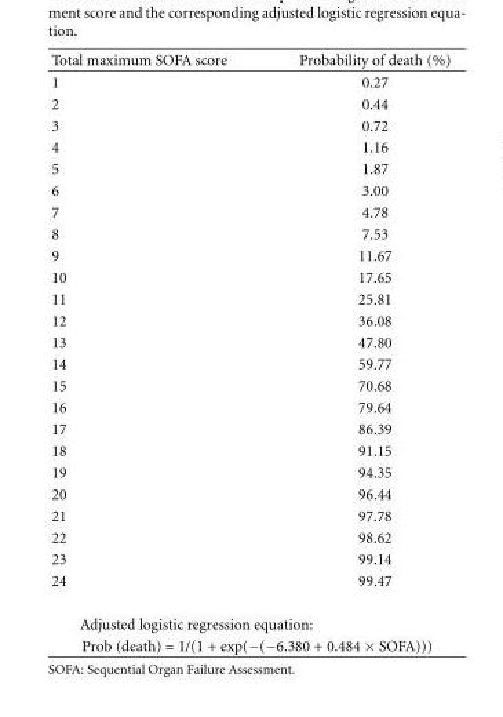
<table><thead><tr><td>Total maximum SOFA score</td><td>Probability of death (%)</td></tr></thead><tbody><tr><td>1</td><td>0.27</td></tr><tr><td>2</td><td>0.44</td></tr><tr><td>3</td><td>0.72</td></tr><tr><td>4</td><td>1.16</td></tr><tr><td>5</td><td>1.87</td></tr><tr><td>6</td><td>3.00</td></tr><tr><td>7</td><td>4.78</td></tr><tr><td>8</td><td>7.53</td></tr><tr><td>9</td><td>11.67</td></tr><tr><td>10</td><td>17.65</td></tr><tr><td>11</td><td>25.81</td></tr><tr><td>12</td><td>36.08</td></tr><tr><td>13</td><td>47.80</td></tr><tr><td>14</td><td>59.77</td></tr><tr><td>15</td><td>70.68</td></tr><tr><td>16</td><td>79.64</td></tr><tr><td>17</td><td>86.39</td></tr><tr><td>18</td><td>91.15</td></tr><tr><td>19</td><td>94.35</td></tr><tr><td>20</td><td>96.44</td></tr><tr><td>21</td><td>97.78</td></tr><tr><td>22</td><td>98.62</td></tr><tr><td>23</td><td>99.14</td></tr><tr><td>24</td><td>99.47</td></tr><tr><td colspan="2">Adjusted logistic regression equation:</td></tr><tr><td colspan="2">Prob (death) = 1/(1 + exp(−(−6.380 + 0.484 × SOFA)))</td></tr></tbody></table>